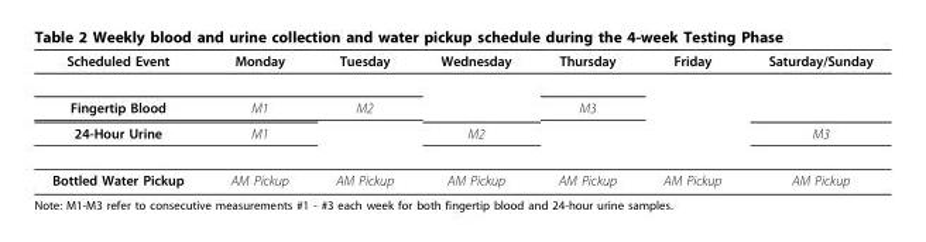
<table><thead><tr><td>Scheduled Event</td><td>Monday</td><td>Tuesday</td><td>Wednesday</td><td>Thursday</td><td>Friday</td><td>Saturday/Sunday</td></tr></thead><tbody><tr><td>Fingertip Blood</td><td>M1</td><td>M2</td><td></td><td>M3</td><td></td><td></td></tr><tr><td>24-Hour Urine</td><td>M1</td><td></td><td>M2</td><td></td><td></td><td>M3</td></tr><tr><td>Bottled Water Pickup</td><td>AM Pickup</td><td>AM Pickup</td><td>AM Pickup</td><td>AM Pickup</td><td>AM Pickup</td><td>AM Pickup</td></tr></tbody></table>